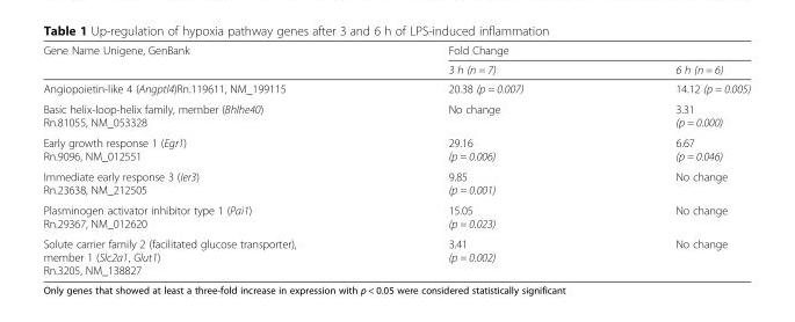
<table><thead><tr><td rowspan="2">Gene Name Unigene, GenBank</td><td colspan="2">Fold Change</td></tr><tr><td>3 h (n = 7)</td><td>6 h (n = 6)</td></tr></thead><tbody><tr><td>Angiopoietin-like 4 (Angptl4)Rn.119611, NM_199115</td><td>20.38 (p = 0.007)</td><td>14.12 (p = 0.005)</td></tr><tr><td>Basic helix-loop-helix family, member (Bhlhe40) Rn.81055, NM_053328</td><td>No change</td><td>3.31 (p = 0.000)</td></tr><tr><td>Early growth response 1 (Egr1) Rn.9096, NM_012551</td><td>29.16 (p = 0.006)</td><td>6.67 (p = 0.046)</td></tr><tr><td>Immediate early response 3 (Ier3) Rn.23638, NM_212505</td><td>9.85 (p = 0.001)</td><td>No change</td></tr><tr><td>Plasminogen activator inhibitor type 1 (Pai1) Rn.29367, NM_012620</td><td>15.05 (p = 0.023)</td><td>No change</td></tr><tr><td>Solute carrier family 2 (facilitated glucose transporter), member 1 (Slc2a1, Glut1) Rn.3205, NM_138827</td><td>3.41 (p = 0.002)</td><td>No change</td></tr></tbody></table>